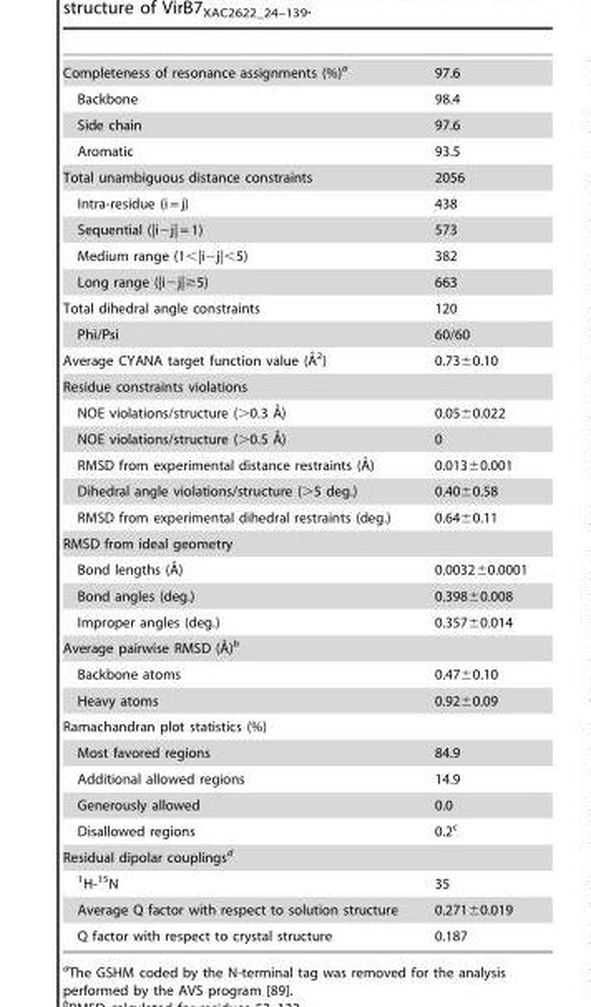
<table><tbody><tr><td>Completeness of resonance assignments (%)<sup>a</sup></td><td>97.6</td></tr><tr><td>Backbone</td><td>98.4</td></tr><tr><td>Side chain</td><td>97.6</td></tr><tr><td>Aromatic</td><td>93.5</td></tr><tr><td>Total unambiguous distance constraints</td><td>2056</td></tr><tr><td>Intra-residue (i = j)</td><td>438</td></tr><tr><td>Sequential (|i−j| = 1)</td><td>573</td></tr><tr><td>Medium range (1&lt;|i−j|&lt;5)</td><td>382</td></tr><tr><td>Long range (|i−j|≥5)</td><td>663</td></tr><tr><td>Total dihedral angle constraints</td><td>120</td></tr><tr><td>Phi/Psi</td><td>60/60</td></tr><tr><td>Average CYANA target function value (A˚2)</td><td>0.73±0.10</td></tr><tr><td colspan="2">Residue constraints violations</td></tr><tr><td>NOE violations/structure (.0.3 A˚)</td><td>0.05±0.022</td></tr><tr><td>NOE violations/structure (.0.5 A˚)</td><td>0</td></tr><tr><td>RMSD from experimental distance restraints (A˚)</td><td>0.013±0.001</td></tr><tr><td>Dihedral angle violations/structure (&gt;5 deg.)</td><td>0.40±0.58</td></tr><tr><td>RMSD from experimental dihedral restraints (deg.)</td><td>0.64±0.11</td></tr><tr><td colspan="2">RMSD from ideal geometry</td></tr><tr><td>Bond lengths (A˚)</td><td>0.0032±0.0001</td></tr><tr><td>Bond angles (deg.)</td><td>0.398±0.008</td></tr><tr><td>Improper angles (deg.)</td><td>0.357±0.014</td></tr><tr><td colspan="2">Average pairwise RMSD (A˚)b</td></tr><tr><td>Backbone atoms</td><td>0.47±0.10</td></tr><tr><td>Heavy atoms</td><td>0.92±0.09</td></tr><tr><td colspan="2">Ramachandran plot statistics (%)</td></tr><tr><td>Most favored regions</td><td>84.9</td></tr><tr><td>Additional allowed regions</td><td>14.9</td></tr><tr><td>Generously allowed</td><td>0.0</td></tr><tr><td>Disallowed regions</td><td>0.2<sup>c</sup></td></tr><tr><td colspan="2">Residual dipolar couplings<sup>d</sup></td></tr><tr><td><sup>1</sup>H-<sup>15</sup>N</td><td>35</td></tr><tr><td>Average Q factor with respect to solution structure</td><td>0.271±0.019</td></tr><tr><td>Q factor with respect to crystal structure</td><td>0.187</td></tr></tbody></table>